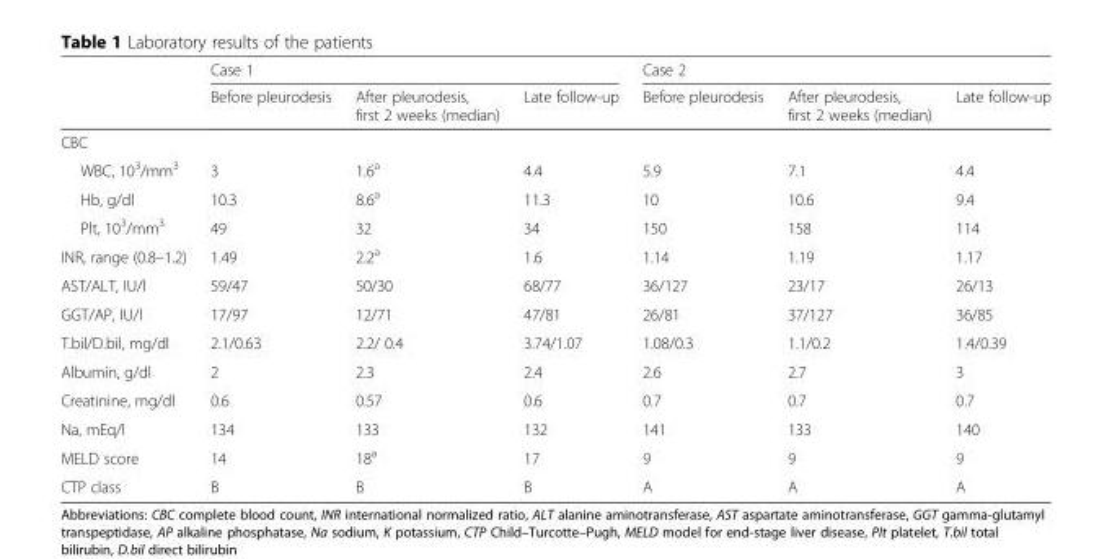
<table><thead><tr><td rowspan="2"></td><td colspan="3">Case 1</td><td colspan="3">Case 2</td></tr><tr><td>Before pleurodesis</td><td>After pleurodesis, first 2 weeks (median)</td><td>Late follow-up</td><td>Before pleurodesis</td><td>After pleurodesis, first 2 weeks (median)</td><td>Late follow-up</td></tr></thead><tbody><tr><td colspan="7">CBC</td></tr><tr><td>WBC, 10<sup>3</sup>/mm<sup>3</sup></td><td>3</td><td>1.6<sup>a</sup></td><td>4.4</td><td>5.9</td><td>7.1</td><td>4.4</td></tr><tr><td>Hb, g/dl</td><td>10.3</td><td>8.6<sup>a</sup></td><td>11.3</td><td>10</td><td>10.6</td><td>9.4</td></tr><tr><td>Plt, 10<sup>3</sup>/mm<sup>3</sup></td><td>49</td><td>32</td><td>34</td><td>150</td><td>158</td><td>114</td></tr><tr><td>INR, range (0.8–1.2)</td><td>1.49</td><td>2.2<sup>a</sup></td><td>1.6</td><td>1.14</td><td>1.19</td><td>1.17</td></tr><tr><td>AST/ALT, IU/l</td><td>59/47</td><td>50/30</td><td>68/77</td><td>36/127</td><td>23/17</td><td>26/13</td></tr><tr><td>GGT/AP, IU/l</td><td>17/97</td><td>12/71</td><td>47/81</td><td>26/81</td><td>37/127</td><td>36/85</td></tr><tr><td>T.bil/D.bil, mg/dl</td><td>2.1/0.63</td><td>2.2/ 0.4</td><td>3.74/1.07</td><td>1.08/0.3</td><td>1.1/0.2</td><td>1.4/0.39</td></tr><tr><td>Albumin, g/dl</td><td>2</td><td>2.3</td><td>2.4</td><td>2.6</td><td>2.7</td><td>3</td></tr><tr><td>Creatinine, mg/dl</td><td>0.6</td><td>0.57</td><td>0.6</td><td>0.7</td><td>0.7</td><td>0.7</td></tr><tr><td>Na, mEq/l</td><td>134</td><td>133</td><td>132</td><td>141</td><td>133</td><td>140</td></tr><tr><td>MELD score</td><td>14</td><td>18<sup>a</sup></td><td>17</td><td>9</td><td>9</td><td>9</td></tr><tr><td>CTP class</td><td>B</td><td>B</td><td>B</td><td>A</td><td>A</td><td>A</td></tr></tbody></table>